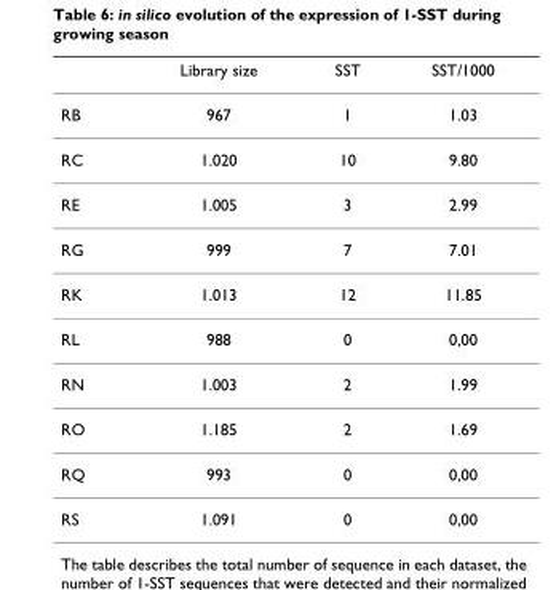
<table><thead><tr><td></td><td>Library size</td><td>SST</td><td>SST/1000</td></tr></thead><tbody><tr><td>RB</td><td>967</td><td>1</td><td>1.03</td></tr><tr><td>RC</td><td>1.020</td><td>10</td><td>9.80</td></tr><tr><td>RE</td><td>1.005</td><td>3</td><td>2.99</td></tr><tr><td>RG</td><td>999</td><td>7</td><td>7.01</td></tr><tr><td>RK</td><td>1.013</td><td>12</td><td>11.85</td></tr><tr><td>RL</td><td>988</td><td>0</td><td>0,00</td></tr><tr><td>RN</td><td>1.003</td><td>2</td><td>1.99</td></tr><tr><td>RO</td><td>1.185</td><td>2</td><td>1.69</td></tr><tr><td>RQ</td><td>993</td><td>0</td><td>0,00</td></tr><tr><td>RS</td><td>1.091</td><td>0</td><td>0,00</td></tr></tbody></table>